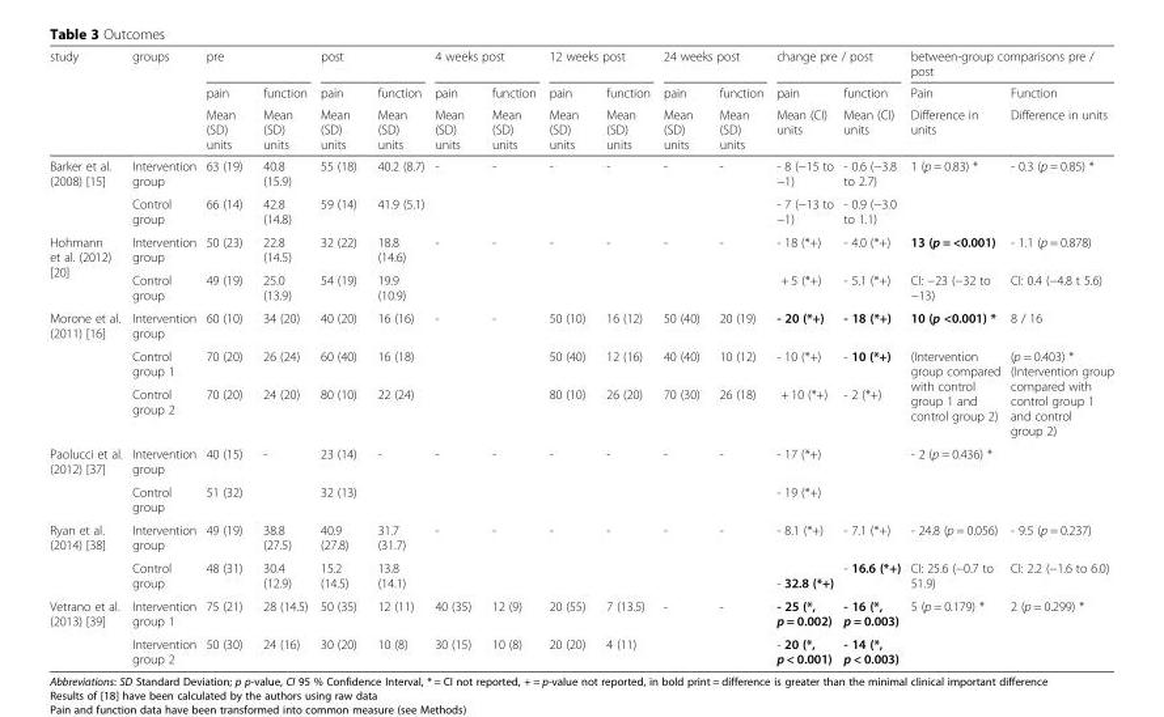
<table><thead><tr><td rowspan="3">study</td><td rowspan="3">groups</td><td colspan="2">pre</td><td colspan="2">post</td><td colspan="2">4 weeks post</td><td colspan="2">12 weeks post</td><td colspan="2">24 weeks post</td><td colspan="2">change pre / post</td><td colspan="2">between-group comparisons pre / post</td></tr><tr><td rowspan="2">pain Mean (SD) units</td><td rowspan="2">function Mean (SD) units</td><td rowspan="2">pain Mean (SD) units</td><td rowspan="2">function Mean (SD) units</td><td rowspan="2">pain Mean (SD) units</td><td rowspan="2">function Mean (SD) units</td><td rowspan="2">pain Mean (SD) units</td><td rowspan="2">function Mean (SD) units</td><td rowspan="2">pain Mean (SD) units</td><td rowspan="2">function Mean (SD) units</td><td rowspan="2">pain Mean (CI) units</td><td rowspan="2">function Mean (CI) units</td><td rowspan="2">Pain Difference in units</td><td rowspan="2">Function Difference in units</td></tr><tr></tr></thead><tbody><tr><td rowspan="2">Barker et al. (2008) [15]</td><td>Intervention group</td><td>63 (19)</td><td>40.8 (15.9)</td><td>55 (18)</td><td>40.2 (8.7)</td><td>-</td><td>-</td><td>-</td><td>-</td><td>-</td><td>-</td><td>- 8 (−15 to −1)</td><td>- 0.6 (−3.8 to 2.7)</td><td>1 (p = 0.83) *</td><td>- 0.3 (p = 0.85) *</td></tr><tr><td>Control group</td><td>66 (14)</td><td>42.8 (14.8)</td><td>59 (14)</td><td>41.9 (5.1)</td><td></td><td></td><td></td><td></td><td></td><td></td><td>- 7 (−13 to −1)</td><td>- 0.9 (−3.0 to 1.1)</td><td></td><td></td></tr><tr><td rowspan="2">Hohmann et al. (2012) [20]</td><td>Intervention group</td><td>50 (23)</td><td>22.8 (14.5)</td><td>32 (22)</td><td>18.8 (14.6)</td><td>-</td><td>-</td><td>-</td><td>-</td><td>-</td><td>-</td><td>- 18 (*+)</td><td>- 4.0 (*+)</td><td>13 (p = &lt;0.001)</td><td>- 1.1 (p = 0.878)</td></tr><tr><td>Control group</td><td>49 (19)</td><td>25.0 (13.9)</td><td>54 (19)</td><td>19.9 (10.9)</td><td></td><td></td><td></td><td></td><td></td><td></td><td>+ 5 (*+)</td><td>- 5.1 (*+)</td><td>CI: −23 (−32 to −13)</td><td>CI: 0.4 (−4.8 t 5.6)</td></tr><tr><td rowspan="3">Morone et al. (2011) [16]</td><td>Intervention group</td><td>60 (10)</td><td>34 (20)</td><td>40 (20)</td><td>16 (16)</td><td>-</td><td>-</td><td>50 (10)</td><td>16 (12)</td><td>50 (40)</td><td>20 (19)</td><td>- 20 (*+)</td><td>- 18 (*+)</td><td>10 (p &lt;0.001) *</td><td>8 / 16</td></tr><tr><td>Control group 1</td><td>70 (20)</td><td>26 (24)</td><td>60 (40)</td><td>16 (18)</td><td></td><td></td><td>50 (40)</td><td>12 (16)</td><td>40 (40)</td><td>10 (12)</td><td>- 10 (*+)</td><td>- 10 (*+)</td><td rowspan="2">(Intervention group compared with control group 1 and control group 2)</td><td rowspan="2">(p = 0.403) * (Intervention group compared with control group 1 and control group 2)</td></tr><tr><td>Control group 2</td><td>70 (20)</td><td>24 (20)</td><td>80 (10)</td><td>22 (24)</td><td></td><td></td><td>80 (10)</td><td>26 (20)</td><td>70 (30)</td><td>26 (18)</td><td>+ 10 (*+)</td><td>- 2 (*+)</td></tr><tr><td rowspan="2">Paolucci et al. (2012) [37]</td><td>Intervention group</td><td>40 (15)</td><td>-</td><td>23 (14)</td><td>-</td><td>-</td><td>-</td><td>-</td><td>-</td><td>-</td><td>-</td><td>- 17 (*+)</td><td></td><td>- 2 (p = 0.436) *</td><td></td></tr><tr><td>Control group</td><td>51 (32)</td><td></td><td>32 (13)</td><td></td><td></td><td></td><td></td><td></td><td></td><td></td><td>- 19 (*+)</td><td></td><td></td><td></td></tr><tr><td rowspan="2">Ryan et al. (2014) [38]</td><td>Intervention group</td><td>49 (19)</td><td>38.8 (27.5)</td><td>40.9 (27.8)</td><td>31.7 (31.7)</td><td>-</td><td>-</td><td>-</td><td>-</td><td>-</td><td>-</td><td>- 8.1 (*+)</td><td>- 7.1 (*+)</td><td>- 24.8 (p = 0.056)</td><td>- 9.5 (p = 0.237)</td></tr><tr><td>Control group</td><td>48 (31)</td><td>30.4 (12.9)</td><td>15.2 (14.5)</td><td>13.8 (14.1)</td><td></td><td></td><td></td><td></td><td></td><td></td><td>- 32.8 (*+)</td><td>- 16.6 (*+)</td><td>CI: 25.6 (−0.7 to 51.9)</td><td>CI: 2.2 (−1.6 to 6.0)</td></tr><tr><td rowspan="2">Vetrano et al. (2013) [39]</td><td>Intervention group 1</td><td>75 (21)</td><td>28 (14.5)</td><td>50 (35)</td><td>12 (11)</td><td>40 (35)</td><td>12 (9)</td><td>20 (55)</td><td>7 (13.5)</td><td>-</td><td>-</td><td>- 25 (*, p = 0.002)</td><td>- 16 (*, p = 0.003)</td><td>5 (p = 0.179) *</td><td>2 (p = 0.299) *</td></tr><tr><td>Intervention group 2</td><td>50 (30)</td><td>24 (16)</td><td>30 (20)</td><td>10 (8)</td><td>30 (15)</td><td>10 (8)</td><td>20 (20)</td><td>4 (11)</td><td></td><td></td><td>- 20 (*, p &lt; 0.001)</td><td>- 14 (*, p &lt; 0.003)</td><td></td><td></td></tr></tbody></table>